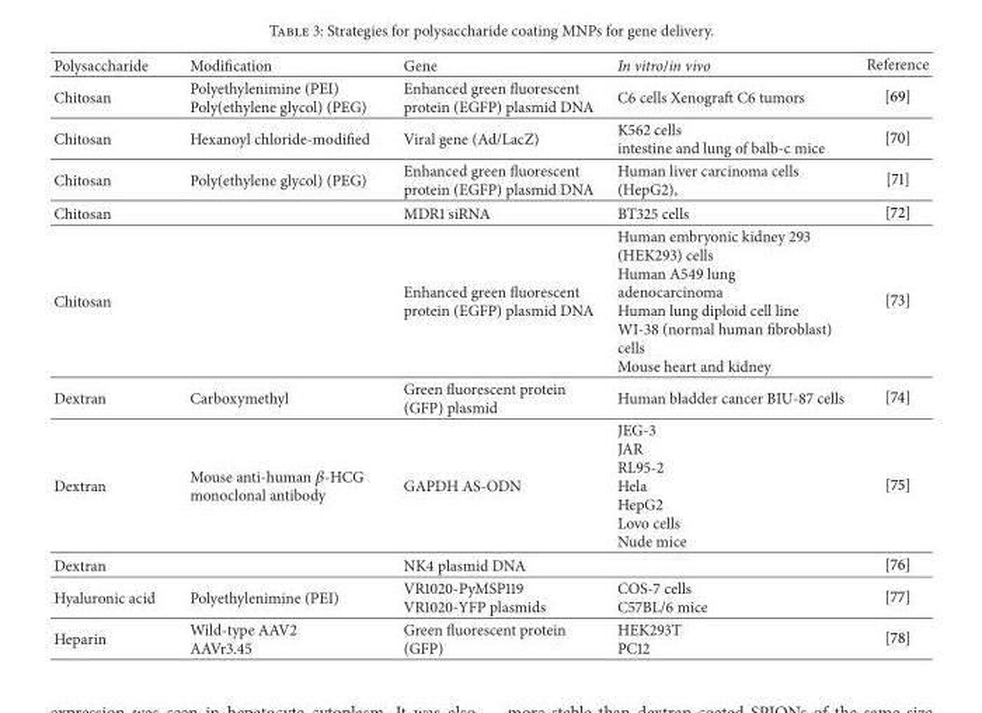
<table><thead><tr><td>Polysaccharide</td><td>Modification</td><td>Gene</td><td>In vitro/in vivo</td><td>Reference</td></tr></thead><tbody><tr><td>Chitosan</td><td>Polyethylenimine (PEI) Poly(ethylene glycol) (PEG)</td><td>Enhanced green fluorescent protein (EGFP) plasmid DNA</td><td>C6 cells Xenograft C6 tumors</td><td>[69]</td></tr><tr><td>Chitosan</td><td>Hexanoyl chloride-modified</td><td>Viral gene (Ad/LacZ)</td><td>K562 cells intestine and lung of balb-c mice</td><td>[70]</td></tr><tr><td>Chitosan</td><td>Poly(ethylene glycol) (PEG)</td><td>Enhanced green fluorescent protein (EGFP) plasmid DNA</td><td>Human liver carcinoma cells (HepG2),</td><td>[71]</td></tr><tr><td>Chitosan</td><td></td><td>MDR1 siRNA</td><td>BT325 cells</td><td>[72]</td></tr><tr><td>Chitosan</td><td></td><td>Enhanced green fluorescent protein (EGFP) plasmid DNA</td><td>Human embryonic kidney 293 (HEK293) cells Human A549 lung adenocarcinoma Human lung diploid cell line WI-38 (normal human fibroblast) cells Mouse heart and kidney</td><td>[73]</td></tr><tr><td>Dextran</td><td>Carboxymethyl</td><td>Green fluorescent protein (GFP) plasmid</td><td>Human bladder cancer BIU-87 cells</td><td>[74]</td></tr><tr><td>Dextran</td><td>Mouse anti-human 𝛽-HCG monoclonal antibody</td><td>GAPDH AS-ODN</td><td>JEG-3 JAR RL95-2 Hela HepG2 Lovo cells Nude mice</td><td>[75]</td></tr><tr><td>Dextran</td><td></td><td>NK4 plasmid DNA</td><td></td><td>[76]</td></tr><tr><td>Hyaluronic acid</td><td>Polyethylenimine (PEI)</td><td>VR1020-PyMSP119 VR1020-YFP plasmids</td><td>COS-7 cells C57BL/6 mice</td><td>[77]</td></tr><tr><td>Heparin</td><td>Wild-type AAV2 AAVr3.45</td><td>Green fluorescent protein (GFP)</td><td>HEK293T PC12</td><td>[78]</td></tr></tbody></table>